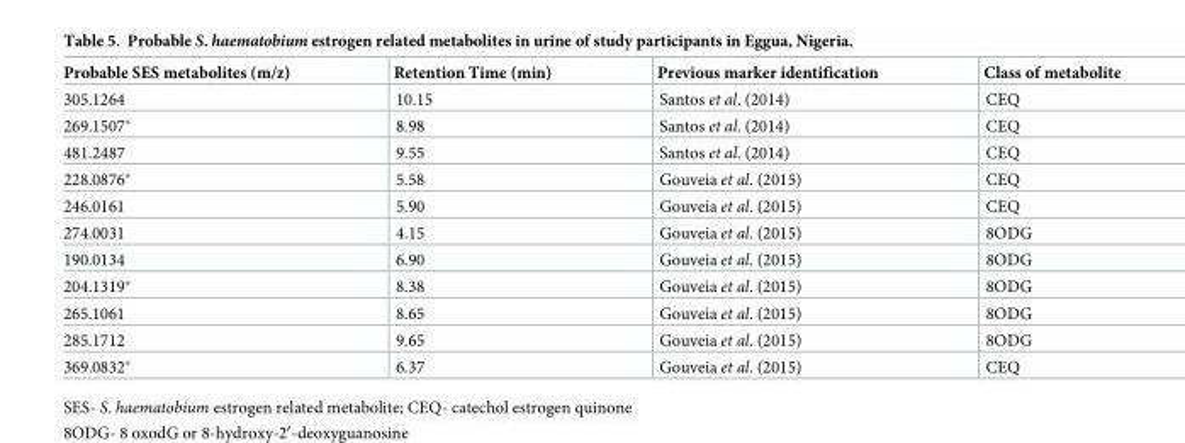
<table><thead><tr><td>Probable SES metabolites (m/z)</td><td>Retention Time (min)</td><td>Previous marker identification</td><td>Class of metabolite</td></tr></thead><tbody><tr><td>305.1264</td><td>10.15</td><td>Santos et al. (2014)</td><td>CEQ</td></tr><tr><td>269.1507*</td><td>8.98</td><td>Santos et al. (2014)</td><td>CEQ</td></tr><tr><td>481.2487</td><td>9.55</td><td>Santos et al. (2014)</td><td>CEQ</td></tr><tr><td>228.0876*</td><td>5.58</td><td>Gouveia et al. (2015)</td><td>CEQ</td></tr><tr><td>246.0161</td><td>5.90</td><td>Gouveia et al. (2015)</td><td>CEQ</td></tr><tr><td>274.0031</td><td>4.15</td><td>Gouveia et al. (2015)</td><td>8ODG</td></tr><tr><td>190.0134</td><td>6.90</td><td>Gouveia et al. (2015)</td><td>8ODG</td></tr><tr><td>204.1319*</td><td>8.38</td><td>Gouveia et al. (2015)</td><td>8ODG</td></tr><tr><td>265.1061</td><td>8.65</td><td>Gouveia et al. (2015)</td><td>8ODG</td></tr><tr><td>285.1712</td><td>9.65</td><td>Gouveia et al. (2015)</td><td>8ODG</td></tr><tr><td>369.0832*</td><td>6.37</td><td>Gouveia et al. (2015)</td><td>CEQ</td></tr></tbody></table>